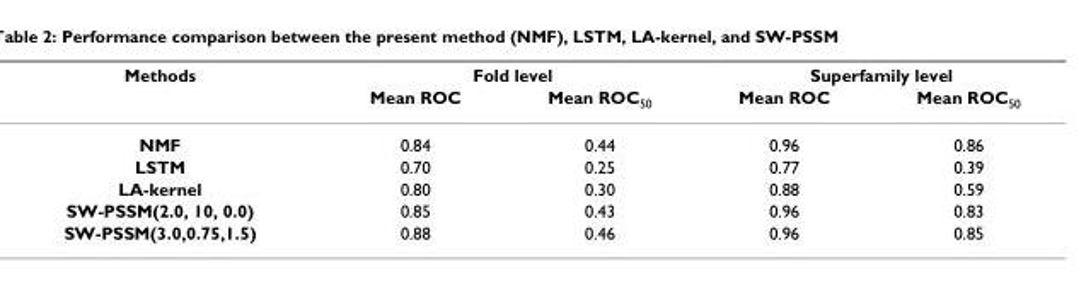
<table><thead><tr><td rowspan="2">Methods</td><td colspan="2">Fold level</td><td colspan="2">Superfamily level</td></tr><tr><td>Mean ROC</td><td>Mean ROC<sub>50</sub></td><td>Mean ROC</td><td>Mean ROC<sub>50</sub></td></tr></thead><tbody><tr><td>NMF</td><td>0.84</td><td>0.44</td><td>0.96</td><td>0.86</td></tr><tr><td>LSTM</td><td>0.70</td><td>0.25</td><td>0.77</td><td>0.39</td></tr><tr><td>LA-kernel</td><td>0.80</td><td>0.30</td><td>0.88</td><td>0.59</td></tr><tr><td>SW-PSSM(2.0, 10, 0.0)</td><td>0.85</td><td>0.43</td><td>0.96</td><td>0.83</td></tr><tr><td>SW-PSSM(3.0,0.75,1.5)</td><td>0.88</td><td>0.46</td><td>0.96</td><td>0.85</td></tr></tbody></table>